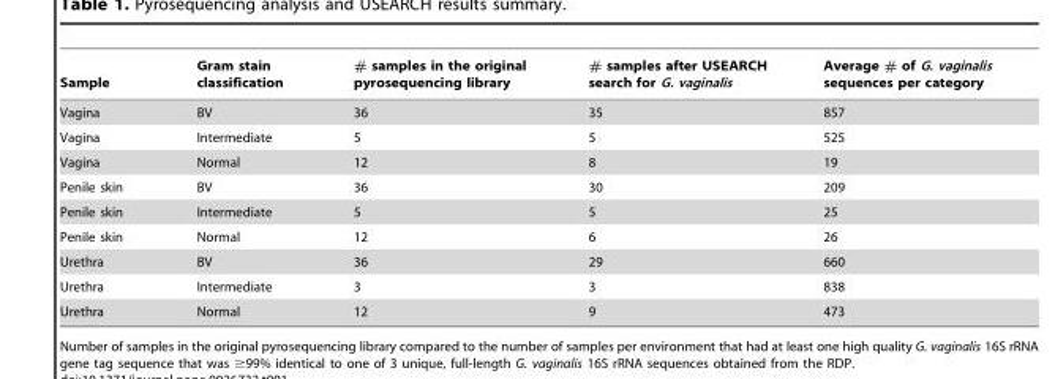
<table><thead><tr><td>Sample</td><td>Gram stain classification</td><td># samples in the original pyrosequencing library</td><td># samples after USEARCH search for G. vaginalis</td><td>Average # of G. vaginalis sequences per category</td></tr></thead><tbody><tr><td>Vagina</td><td>BV</td><td>36</td><td>35</td><td>857</td></tr><tr><td>Vagina</td><td>Intermediate</td><td>5</td><td>5</td><td>525</td></tr><tr><td>Vagina</td><td>Normal</td><td>12</td><td>8</td><td>19</td></tr><tr><td>Penile skin</td><td>BV</td><td>36</td><td>30</td><td>209</td></tr><tr><td>Penile skin</td><td>Intermediate</td><td>5</td><td>5</td><td>25</td></tr><tr><td>Penile skin</td><td>Normal</td><td>12</td><td>6</td><td>26</td></tr><tr><td>Urethra</td><td>BV</td><td>36</td><td>29</td><td>660</td></tr><tr><td>Urethra</td><td>Intermediate</td><td>3</td><td>3</td><td>838</td></tr><tr><td>Urethra</td><td>Normal</td><td>12</td><td>9</td><td>473</td></tr></tbody></table>